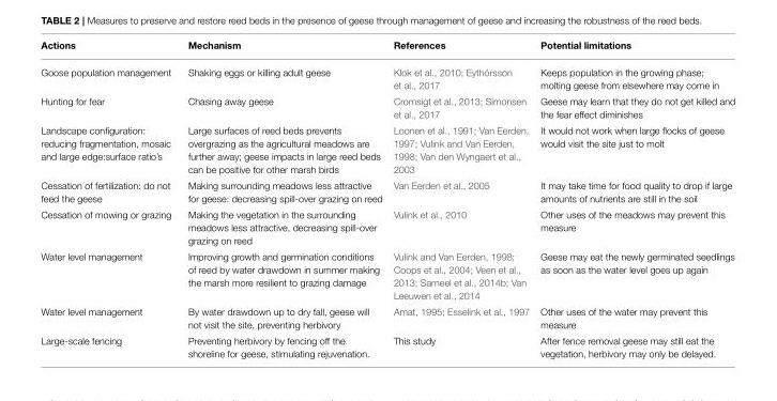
<table><thead><tr><td>Actions</td><td>Mechanism</td><td>References</td><td>Potential limitations</td></tr></thead><tbody><tr><td>Goose population management</td><td>Shaking eggs or killing adult geese</td><td>Klok et al., 2010; Eythórsson et al., 2017</td><td>Keeps population in the growing phase; molting geese from elsewhere may come in</td></tr><tr><td>Hunting for fear</td><td>Chasing away geese</td><td>Cromsigt et al., 2013; Simonsen et al., 2017</td><td>Geese may learn that they do not get killed and the fear effect diminishes</td></tr><tr><td>Landscape configuration: reducing fragmentation, mosaic and large edge:surface ratio’s</td><td>Large surfaces of reed beds prevents overgrazing as the agricultural meadows are further away; geese impacts in large reed beds can be positive for other marsh birds</td><td>Loonen et al., 1991; Van Eerden, 1997; Vulink and Van Eerden, 1998; Van den Wyngaert et al., 2003</td><td>It would not work when large flocks of geese would visit the site just to molt</td></tr><tr><td>Cessation of fertilization: do not feed the geese</td><td>Making surrounding meadows less attractive for geese: decreasing spill-over grazing on reed</td><td>Van Eerden et al., 2005</td><td>It may take time for food quality to drop if large amounts of nutrients are still in the soil</td></tr><tr><td>Cessation of mowing or grazing</td><td>Making the vegetation in the surrounding meadows less attractive, decreasing spill-over grazing on reed</td><td>Vulink et al., 2010</td><td>Other uses of the meadows may prevent this measure</td></tr><tr><td>Water level management</td><td>Improving growth and germination conditions of reed by water drawdown in summer making the marsh more resilient to grazing damage</td><td>Vulink and Van Eerden, 1998; Coops et al., 2004; Veen et al., 2013; Sarneel et al., 2014b; Van Leeuwen et al., 2014</td><td>Geese may eat the newly germinated seedlings as soon as the water level goes up again</td></tr><tr><td>Water level management</td><td>By water drawdown up to dry fall, geese will not visit the site, preventing herbivory</td><td>Amat, 1995; Esselink et al., 1997</td><td>Other uses of the water may prevent this measure</td></tr><tr><td>Large-scale fencing</td><td>Preventing herbivory by fencing off the shoreline for geese, stimulating rejuvenation.</td><td>This study</td><td>After fence removal geese may still eat the vegetation, herbivory may only be delayed.</td></tr></tbody></table>